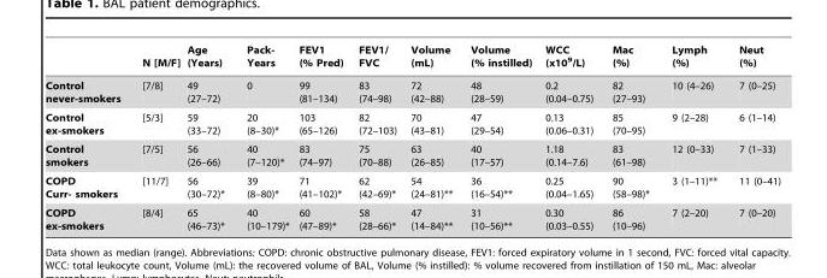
<table><thead><tr><td></td><td>N [M/F]</td><td>Age (Years)</td><td>Pack- Years</td><td>FEV1 (% Pred)</td><td>FEV1/ FVC</td><td>Volume (mL)</td><td>Volume (% instilled)</td><td>WCC (x10<sup>9</sup>/L)</td><td>Mac (%)</td><td>Lymph (%)</td><td>Neut (%)</td></tr></thead><tbody><tr><td>Control never-smokers</td><td>[7/8]</td><td>49 (27–72)</td><td>0</td><td>99 (81–134)</td><td>83 (74–98)</td><td>72 (42–88)</td><td>48 (28–59)</td><td>0.2 (0.04–0.75)</td><td>82 (27–93)</td><td>10 (4–26)</td><td>7 (0–25)</td></tr><tr><td>Control ex-smokers</td><td>[5/3]</td><td>59 (33–72)</td><td>20 (8–30)*</td><td>103 (65–126)</td><td>82 (72–103)</td><td>70 (43–81)</td><td>47 (29–54)</td><td>0.13 (0.06–0.31)</td><td>85 (70–95)</td><td>9 (2–28)</td><td>6 (1–14)</td></tr><tr><td>Control smokers</td><td>[7/5]</td><td>56 (26–66)</td><td>40 (7–120)*</td><td>83 (74–97)</td><td>75 (70–88)</td><td>63 (26–85)</td><td>40 (17–57)</td><td>1.18 (0.14–7.6)</td><td>83 (61–98)</td><td>12 (0–33)</td><td>7 (1–33)</td></tr><tr><td>COPD Curr- smokers</td><td>[11/7]</td><td>56 (30–72)*</td><td>39 (8–80)*</td><td>71 (41–102)*</td><td>62 (42–69)*</td><td>54 (24–81)**</td><td>36 (16–54)**</td><td>0.25 (0.04–1.65)</td><td>90 (58–98)*</td><td>3 (1–11)**</td><td>11 (0–41)</td></tr><tr><td>COPD ex-smokers</td><td>[8/4]</td><td>65 (46–73)*</td><td>40 (10–179)*</td><td>60 (47–89)*</td><td>58 (28–66)*</td><td>47 (14–84)**</td><td>31 (10–56)**</td><td>0.30 (0.03–0.55)</td><td>86 (10–96)</td><td>7 (2–20)</td><td>7 (0–20)</td></tr></tbody></table>